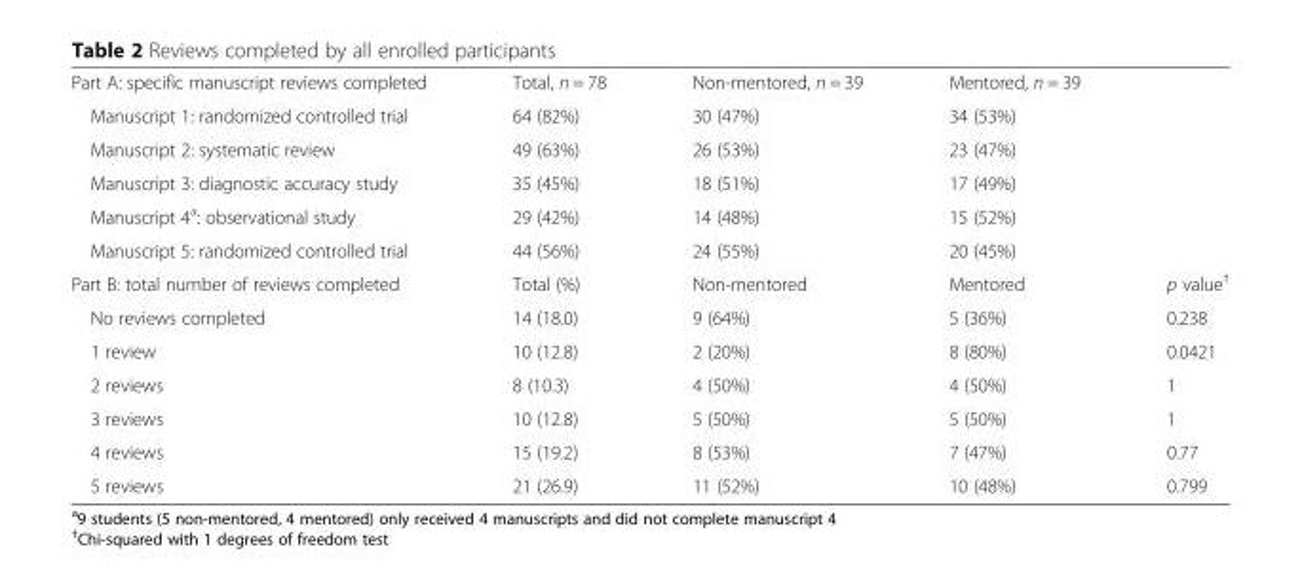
<table><tbody><tr><td>Part A: specific manuscript reviews completed</td><td>Total, n = 78</td><td>Non-mentored, n = 39</td><td>Mentored, n = 39</td><td></td></tr><tr><td>Manuscript 1: randomized controlled trial</td><td>64 (82%)</td><td>30 (47%)</td><td>34 (53%)</td><td></td></tr><tr><td>Manuscript 2: systematic review</td><td>49 (63%)</td><td>26 (53%)</td><td>23 (47%)</td><td></td></tr><tr><td>Manuscript 3: diagnostic accuracy study</td><td>35 (45%)</td><td>18 (51%)</td><td>17 (49%)</td><td></td></tr><tr><td>Manuscript 4<sup>a</sup>: observational study</td><td>29 (42%)</td><td>14 (48%)</td><td>15 (52%)</td><td></td></tr><tr><td>Manuscript 5: randomized controlled trial</td><td>44 (56%)</td><td>24 (55%)</td><td>20 (45%)</td><td></td></tr><tr><td>Part B: total number of reviews completed</td><td>Total (%)</td><td>Non-mentored</td><td>Mentored</td><td>p value<sup>†</sup></td></tr><tr><td>No reviews completed</td><td>14 (18.0)</td><td>9 (64%)</td><td>5 (36%)</td><td>0.238</td></tr><tr><td>1 review</td><td>10 (12.8)</td><td>2 (20%)</td><td>8 (80%)</td><td>0.0421</td></tr><tr><td>2 reviews</td><td>8 (10.3)</td><td>4 (50%)</td><td>4 (50%)</td><td>1</td></tr><tr><td>3 reviews</td><td>10 (12.8)</td><td>5 (50%)</td><td>5 (50%)</td><td>1</td></tr><tr><td>4 reviews</td><td>15 (19.2)</td><td>8 (53%)</td><td>7 (47%)</td><td>0.77</td></tr><tr><td>5 reviews</td><td>21 (26.9)</td><td>11 (52%)</td><td>10 (48%)</td><td>0.799</td></tr></tbody></table>